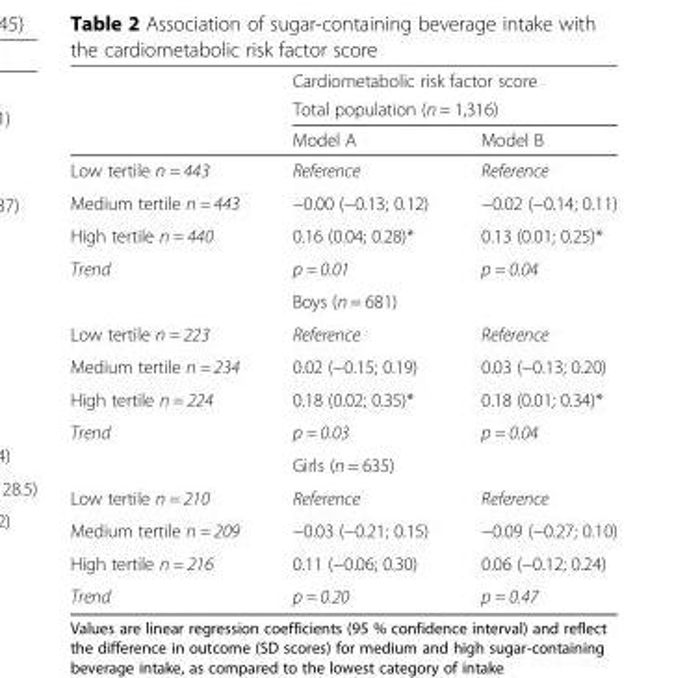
<table><thead><tr><td rowspan="3"></td><td rowspan="2" colspan="2">Cardiometabolic risk factor score Total population (n = 1,316)</td></tr><tr></tr><tr><td>Model A</td><td>Model B</td></tr></thead><tbody><tr><td>Low tertile n = 443</td><td>Reference</td><td>Reference</td></tr><tr><td>Medium tertile n = 443</td><td>−0.00 (−0.13; 0.12)</td><td>−0.02 (−0.14; 0.11)</td></tr><tr><td>High tertile n = 440</td><td>0.16 (0.04; 0.28)*</td><td>0.13 (0.01; 0.25)*</td></tr><tr><td rowspan="2">Trend</td><td>p = 0.01</td><td>p = 0.04</td></tr><tr><td colspan="2">Boys (n = 681)</td></tr><tr><td>Low tertile n = 223</td><td>Reference</td><td>Reference</td></tr><tr><td>Medium tertile n = 234</td><td>0.02 (−0.15; 0.19)</td><td>0.03 (−0.13; 0.20)</td></tr><tr><td>High tertile n = 224</td><td>0.18 (0.02; 0.35)*</td><td>0.18 (0.01; 0.34)*</td></tr><tr><td rowspan="2">Trend</td><td>p = 0.03</td><td>p = 0.04</td></tr><tr><td colspan="2">Girls (n = 635)</td></tr><tr><td>Low tertile n = 210</td><td>Reference</td><td>Reference</td></tr><tr><td>Medium tertile n = 209</td><td>−0.03 (−0.21; 0.15)</td><td>−0.09 (−0.27; 0.10)</td></tr><tr><td>High tertile n = 216</td><td>0.11 (−0.06; 0.30)</td><td>0.06 (−0.12; 0.24)</td></tr><tr><td>Trend</td><td>p = 0.20</td><td>p = 0.47</td></tr></tbody></table>